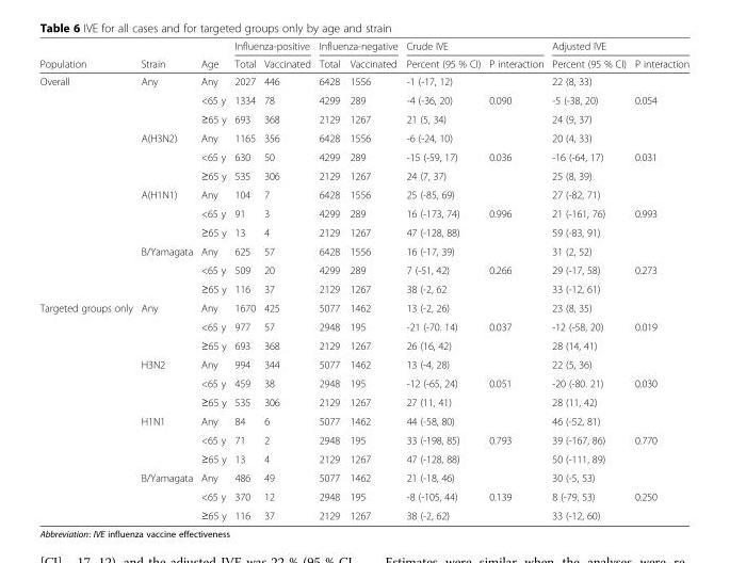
<table><thead><tr><td rowspan="2">Population</td><td rowspan="2">Strain</td><td rowspan="2">Age</td><td colspan="2">Influenza-positive</td><td colspan="2">Influenza-negative</td><td colspan="2">Crude IVE</td><td colspan="2">Adjusted IVE</td></tr><tr><td>Total</td><td>Vaccinated</td><td>Total</td><td>Vaccinated</td><td>Percent (95 % CI)</td><td>P interaction</td><td>Percent (95 % CI)</td><td>P interaction</td></tr></thead><tbody><tr><td rowspan="12">Overall</td><td>Any</td><td>Any</td><td>2027</td><td>446</td><td>6428</td><td>1556</td><td>-1 (-17, 12)</td><td></td><td>22 (8, 33)</td><td></td></tr><tr><td></td><td>&lt;65 y</td><td>1334</td><td>78</td><td>4299</td><td>289</td><td>-4 (-36, 20)</td><td rowspan="2">0.090</td><td>-5 (-38, 20)</td><td rowspan="2">0.054</td></tr><tr><td></td><td>≥65 y</td><td>693</td><td>368</td><td>2129</td><td>1267</td><td>21 (5, 34)</td><td>24 (9, 37)</td></tr><tr><td>A(H3N2)</td><td>Any</td><td>1165</td><td>356</td><td>6428</td><td>1556</td><td>-6 (-24, 10)</td><td></td><td>20 (4, 33)</td><td></td></tr><tr><td></td><td>&lt;65 y</td><td>630</td><td>50</td><td>4299</td><td>289</td><td>-15 (-59, 17)</td><td rowspan="2">0.036</td><td>-16 (-64, 17)</td><td rowspan="2">0.031</td></tr><tr><td></td><td>≥65 y</td><td>535</td><td>306</td><td>2129</td><td>1267</td><td>24 (7, 37)</td><td>25 (8, 39)</td></tr><tr><td>A(H1N1)</td><td>Any</td><td>104</td><td>7</td><td>6428</td><td>1556</td><td>25 (-85, 69)</td><td></td><td>27 (-82, 71)</td><td></td></tr><tr><td></td><td>&lt;65 y</td><td>91</td><td>3</td><td>4299</td><td>289</td><td>16 (-173, 74)</td><td rowspan="2">0.996</td><td>21 (-161, 76)</td><td rowspan="2">0.993</td></tr><tr><td></td><td>≥65 y</td><td>13</td><td>4</td><td>2129</td><td>1267</td><td>47 (-128, 88)</td><td>59 (-83, 91)</td></tr><tr><td>B/Yamagata</td><td>Any</td><td>625</td><td>57</td><td>6428</td><td>1556</td><td>16 (-17, 39)</td><td></td><td>31 (2, 52)</td><td></td></tr><tr><td></td><td>&lt;65 y</td><td>509</td><td>20</td><td>4299</td><td>289</td><td>7 (-51, 42)</td><td rowspan="2">0.266</td><td>29 (-17, 58)</td><td rowspan="2">0.273</td></tr><tr><td></td><td>≥65 y</td><td>116</td><td>37</td><td>2129</td><td>1267</td><td>38 (-2, 62</td><td>33 (-12, 61)</td></tr><tr><td rowspan="12">Targeted groups only</td><td>Any</td><td>Any</td><td>1670</td><td>425</td><td>5077</td><td>1462</td><td>13 (-2, 26)</td><td></td><td>23 (8, 35)</td><td></td></tr><tr><td></td><td>&lt;65 y</td><td>977</td><td>57</td><td>2948</td><td>195</td><td>-21 (-70. 14)</td><td rowspan="2">0.037</td><td>-12 (-58, 20)</td><td rowspan="2">0.019</td></tr><tr><td></td><td>≥65 y</td><td>693</td><td>368</td><td>2129</td><td>1267</td><td>26 (16, 42)</td><td>28 (14, 41)</td></tr><tr><td>H3N2</td><td>Any</td><td>994</td><td>344</td><td>5077</td><td>1462</td><td>13 (-4, 28)</td><td></td><td>22 (5, 36)</td><td></td></tr><tr><td></td><td>&lt;65 y</td><td>459</td><td>38</td><td>2948</td><td>195</td><td>-12 (-65, 24)</td><td rowspan="2">0.051</td><td>-20 (-80. 21)</td><td rowspan="2">0.030</td></tr><tr><td></td><td>≥65 y</td><td>535</td><td>306</td><td>2129</td><td>1267</td><td>27 (11, 41)</td><td>28 (11, 42)</td></tr><tr><td>H1N1</td><td>Any</td><td>84</td><td>6</td><td>5077</td><td>1462</td><td>44 (-58, 80)</td><td></td><td>46 (-52, 81)</td><td></td></tr><tr><td></td><td>&lt;65 y</td><td>71</td><td>2</td><td>2948</td><td>195</td><td>33 (-198, 85)</td><td rowspan="2">0.793</td><td>39 (-167, 86)</td><td rowspan="2">0.770</td></tr><tr><td></td><td>≥65 y</td><td>13</td><td>4</td><td>2129</td><td>1267</td><td>47 (-128, 88)</td><td>50 (-111, 89)</td></tr><tr><td>B/Yamagata</td><td>Any</td><td>486</td><td>49</td><td>5077</td><td>1462</td><td>21 (-18, 46)</td><td></td><td>30 (-5, 53)</td><td></td></tr><tr><td></td><td>&lt;65 y</td><td>370</td><td>12</td><td>2948</td><td>195</td><td>-8 (-105, 44)</td><td rowspan="2">0.139</td><td>8 (-79, 53)</td><td rowspan="2">0.250</td></tr><tr><td></td><td>≥65 y</td><td>116</td><td>37</td><td>2129</td><td>1267</td><td>38 (-2, 62)</td><td>33 (-12, 60)</td></tr></tbody></table>